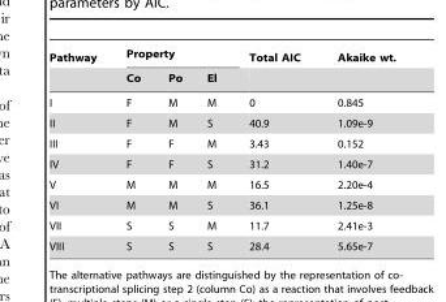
<table><thead><tr><td rowspan="2">Pathway</td><td colspan="3">Property</td><td rowspan="2">Total AIC</td><td rowspan="2">Akaike wt.</td></tr><tr><td>Co</td><td>Po</td><td>El</td></tr></thead><tbody><tr><td>I</td><td>F</td><td>M</td><td>M</td><td>0</td><td>0.845</td></tr><tr><td>II</td><td>F</td><td>M</td><td>S</td><td>40.9</td><td>1.09e-9</td></tr><tr><td>III</td><td>F</td><td>F</td><td>M</td><td>3.43</td><td>0.152</td></tr><tr><td>IV</td><td>F</td><td>F</td><td>S</td><td>31.2</td><td>1.40e-7</td></tr><tr><td>V</td><td>M</td><td>M</td><td>M</td><td>16.5</td><td>2.20e-4</td></tr><tr><td>VI</td><td>M</td><td>M</td><td>S</td><td>36.1</td><td>1.25e-8</td></tr><tr><td>VII</td><td>S</td><td>S</td><td>M</td><td>11.7</td><td>2.41e-3</td></tr><tr><td>VIII</td><td>S</td><td>S</td><td>S</td><td>28.4</td><td>5.65e-7</td></tr></tbody></table>